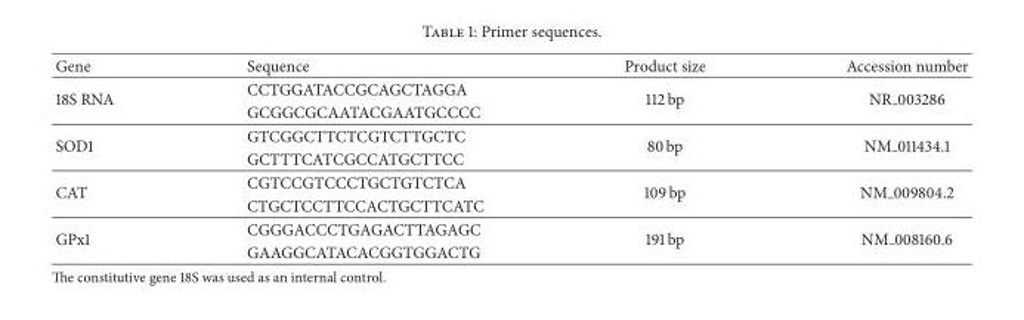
<table><thead><tr><td>Gene</td><td>Sequence</td><td>Product size</td><td>Accession number</td></tr></thead><tbody><tr><td rowspan="2">18S RNA</td><td>CCTGGATACCGCAGCTAGGA</td><td rowspan="2">112 bp</td><td rowspan="2">NR 003286</td></tr><tr><td>GCGGCGCAATACGAATGCCCC</td></tr><tr><td rowspan="2">SOD1</td><td>GTCGGCTTCTCGTCTTGCTC</td><td rowspan="2">80 bp</td><td rowspan="2">NM 011434.1</td></tr><tr><td>GCTTTCATCGCCATGCTTCC</td></tr><tr><td rowspan="2">CAT</td><td>CGTCCGTCCCTGCTGTCTCA</td><td rowspan="2">109 bp</td><td rowspan="2">NM 009804.2</td></tr><tr><td>CTGCTCCTTCCACTGCTTCATC</td></tr><tr><td rowspan="2">GPx1</td><td>CGGGACCCTGAGACTTAGAGC</td><td rowspan="2">191 bp</td><td rowspan="2">NM 008160.6</td></tr><tr><td>GAAGGCATACACGGTGGACTG</td></tr></tbody></table>